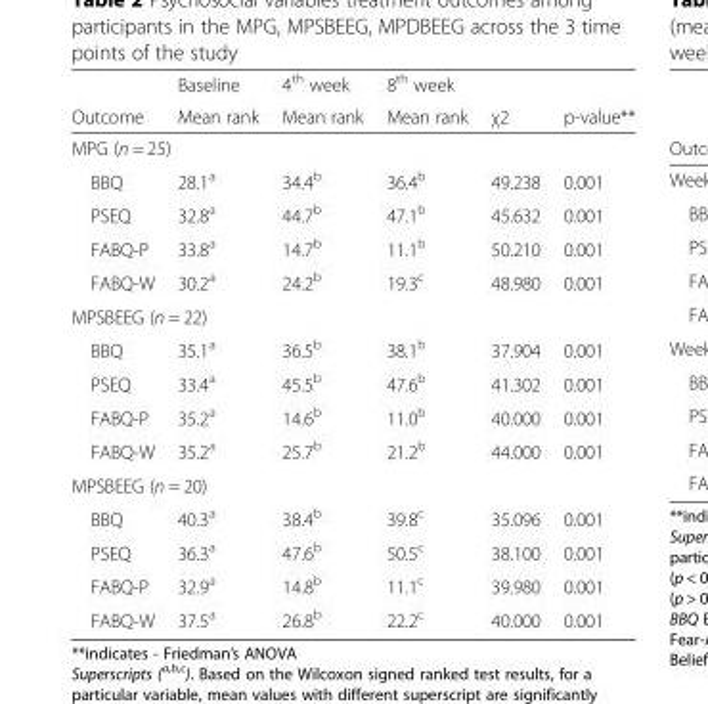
<table><thead><tr><td rowspan="2">Outcome</td><td rowspan="2">Baseline Mean rank</td><td rowspan="2">4<sup>th</sup> week Mean rank</td><td rowspan="2">8<sup>th</sup> week Mean rank</td><td rowspan="2">χ2</td><td rowspan="2">p-value**</td></tr><tr></tr></thead><tbody><tr><td colspan="6">MPG (n = 25)</td></tr><tr><td>BBQ</td><td>28.1<sup>a</sup></td><td>34.4<sup>b</sup></td><td>36.4<sup>b</sup></td><td>49.238</td><td>0.001</td></tr><tr><td>PSEQ</td><td>32.8<sup>a</sup></td><td>44.7<sup>b</sup></td><td>47.1<sup>b</sup></td><td>45.632</td><td>0.001</td></tr><tr><td>FABQ-P</td><td>33.8<sup>a</sup></td><td>14.7<sup>b</sup></td><td>11.1<sup>b</sup></td><td>50.210</td><td>0.001</td></tr><tr><td>FABQ-W</td><td>30.2<sup>a</sup></td><td>24.2<sup>b</sup></td><td>19.3<sup>c</sup></td><td>48.980</td><td>0.001</td></tr><tr><td colspan="6">MPSBEEG (n = 22)</td></tr><tr><td>BBQ</td><td>35.1<sup>a</sup></td><td>36.5<sup>b</sup></td><td>38.1<sup>b</sup></td><td>37.904</td><td>0.001</td></tr><tr><td>PSEQ</td><td>33.4<sup>a</sup></td><td>45.5<sup>b</sup></td><td>47.6<sup>b</sup></td><td>41.302</td><td>0.001</td></tr><tr><td>FABQ-P</td><td>35.2<sup>a</sup></td><td>14.6<sup>b</sup></td><td>11.0<sup>b</sup></td><td>40.000</td><td>0.001</td></tr><tr><td>FABQ-W</td><td>35.2<sup>a</sup></td><td>25.7<sup>b</sup></td><td>21.2<sup>b</sup></td><td>44.000</td><td>0.001</td></tr><tr><td colspan="6">MPSBEEG (n = 20)</td></tr><tr><td>BBQ</td><td>40.3<sup>a</sup></td><td>38.4<sup>b</sup></td><td>39.8<sup>c</sup></td><td>35.096</td><td>0.001</td></tr><tr><td>PSEQ</td><td>36.3<sup>a</sup></td><td>47.6<sup>b</sup></td><td>50.5<sup>c</sup></td><td>38.100</td><td>0.001</td></tr><tr><td>FABQ-P</td><td>32.9<sup>a</sup></td><td>14.8<sup>b</sup></td><td>11.1<sup>c</sup></td><td>39.980</td><td>0.001</td></tr><tr><td>FABQ-W</td><td>37.5<sup>a</sup></td><td>26.8<sup>b</sup></td><td>22.2<sup>c</sup></td><td>40.000</td><td>0.001</td></tr></tbody></table>